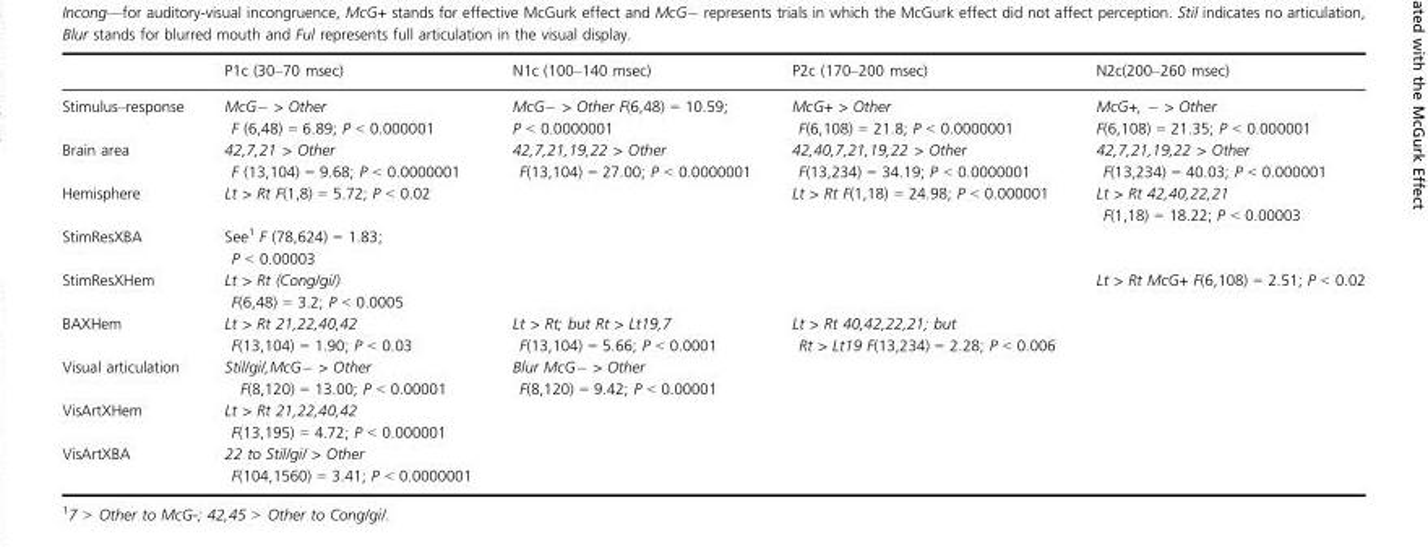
<table><thead><tr><td></td><td>P1c (30–70 msec)</td><td>N1c (100–140 msec)</td><td>P2c (170–200 msec)</td><td>N2c(200–260 msec)</td></tr></thead><tbody><tr><td>Stimulus–response</td><td>McG− &gt; Other F (6,48) = 6.89; P &lt; 0.000001</td><td>McG− &gt; Other F(6,48) = 10.59; P &lt; 0.0000001</td><td>McG+ &gt; Other F(6,108) = 21.8; P &lt; 0.0000001</td><td>McG+, − &gt; Other F(6,108) = 21.35; P &lt; 0.000001</td></tr><tr><td>Brain area</td><td>42,7,21 &gt; Other F (13,104) = 9.68; P &lt; 0.0000001</td><td>42,7,21,19,22 &gt; Other F(13,104) = 27.00; P &lt; 0.0000001</td><td>42,40,7,21,19,22 &gt; Other F(13,234) = 34.19; P &lt; 0.0000001</td><td>42,7,21,19,22 &gt; Other F(13,234) = 40.03; P &lt; 0.000001</td></tr><tr><td>Hemisphere</td><td>Lt &gt; Rt F(1,8) = 5.72; P &lt; 0.02</td><td></td><td>Lt &gt; Rt F(1,18) = 24.98; P &lt; 0.000001</td><td>Lt &gt; Rt 42,40,22,21 F(1,18) = 18.22; P &lt; 0.00003</td></tr><tr><td>StimResXBA</td><td>See1 F (78,624) = 1.83; P &lt; 0.00003</td><td></td><td></td><td></td></tr><tr><td>StimResXHem</td><td>Lt &gt; Rt (Cong/gi/) F(6,48) = 3.2; P &lt; 0.0005</td><td></td><td></td><td>Lt &gt; Rt McG+ F(6,108) = 2.51; P &lt; 0.02</td></tr><tr><td>BAXHem</td><td>Lt &gt; Rt 21,22,40,42 F(13,104) = 1.90; P &lt; 0.03</td><td>Lt &gt; Rt; but Rt &gt; Lt19,7 F(13,104) = 5.66; P &lt; 0.0001</td><td>Lt &gt; Rt 40,42,22,21; but Rt &gt; Lt19 F(13,234) = 2.28; P &lt; 0.006</td><td></td></tr><tr><td>Visual articulation</td><td>Stil/gi/,McG− &gt; Other F(8,120) = 13.00; P &lt; 0.00001</td><td>Blur McG− &gt; Other F(8,120) = 9.42; P &lt; 0.00001</td><td></td><td></td></tr><tr><td>VisArtXHem</td><td>Lt &gt; Rt 21,22,40,42 F(13,195) = 4.72; P &lt; 0.000001</td><td></td><td></td><td></td></tr><tr><td>VisArtXBA</td><td>22 to Stil/gi/ &gt; Other F(104,1560) = 3.41; P &lt; 0.0000001</td><td></td><td></td><td></td></tr></tbody></table>